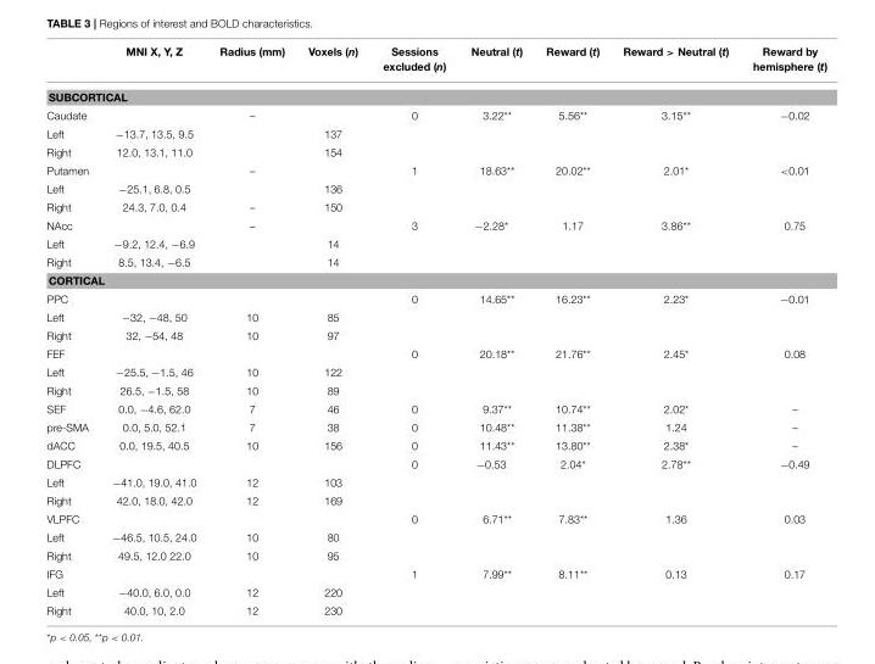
<table><thead><tr><td></td><td>MNI X, Y, Z</td><td>Radius (mm)</td><td>Voxels (n)</td><td>Sessions excluded (n)</td><td>Neutral (t)</td><td>Reward (t)</td><td>Reward &gt; Neutral (t)</td><td>Reward by hemisphere (t)</td></tr></thead><tbody><tr><td colspan="9">SUBCORTICAL</td></tr><tr><td>Caudate</td><td></td><td>–</td><td></td><td>0</td><td>3.22**</td><td>5.56**</td><td>3.15**</td><td>−0.02</td></tr><tr><td>Left</td><td>−13.7, 13.5, 9.5</td><td></td><td>137</td><td></td><td></td><td></td><td></td><td></td></tr><tr><td>Right</td><td>12.0, 13.1, 11.0</td><td></td><td>154</td><td></td><td></td><td></td><td></td><td></td></tr><tr><td>Putamen</td><td></td><td>–</td><td></td><td>1</td><td>18.63**</td><td>20.02**</td><td>2.01*</td><td>&lt;0.01</td></tr><tr><td>Left</td><td>−25.1, 6.8, 0.5</td><td></td><td>136</td><td></td><td></td><td></td><td></td><td></td></tr><tr><td>Right</td><td>24.3, 7.0, 0.4</td><td>–</td><td>150</td><td></td><td></td><td></td><td></td><td></td></tr><tr><td>NAcc</td><td></td><td>–</td><td></td><td>3</td><td>−2.28*</td><td>1.17</td><td>3.86**</td><td>0.75</td></tr><tr><td>Left</td><td>−9.2, 12.4, −6.9</td><td></td><td>14</td><td></td><td></td><td></td><td></td><td></td></tr><tr><td>Right</td><td>8.5, 13.4, −6.5</td><td></td><td>14</td><td></td><td></td><td></td><td></td><td></td></tr><tr><td colspan="9">CORTICAL</td></tr><tr><td>PPC</td><td></td><td></td><td></td><td>0</td><td>14.65**</td><td>16.23**</td><td>2.23*</td><td>−0.01</td></tr><tr><td>Left</td><td>−32, −48, 50</td><td>10</td><td>85</td><td></td><td></td><td></td><td></td><td></td></tr><tr><td>Right</td><td>32, −54, 48</td><td>10</td><td>97</td><td></td><td></td><td></td><td></td><td></td></tr><tr><td>FEF</td><td></td><td></td><td></td><td>0</td><td>20.18**</td><td>21.76**</td><td>2.45*</td><td>0.08</td></tr><tr><td>Left</td><td>−25.5, −1.5, 46</td><td>10</td><td>122</td><td></td><td></td><td></td><td></td><td></td></tr><tr><td>Right</td><td>26.5, −1.5, 58</td><td>10</td><td>89</td><td></td><td></td><td></td><td></td><td></td></tr><tr><td>SEF</td><td>0.0, −4.6, 62.0</td><td>7</td><td>46</td><td>0</td><td>9.37**</td><td>10.74**</td><td>2.02*</td><td>–</td></tr><tr><td>pre-SMA</td><td>0.0, 5.0, 52.1</td><td>7</td><td>38</td><td>0</td><td>10.48**</td><td>11.38**</td><td>1.24</td><td>–</td></tr><tr><td>dACC</td><td>0.0, 19.5, 40.5</td><td>10</td><td>156</td><td>0</td><td>11.43**</td><td>13.80**</td><td>2.38*</td><td>–</td></tr><tr><td>DLPFC</td><td></td><td></td><td></td><td>0</td><td>−0.53</td><td>2.04*</td><td>2.78**</td><td>−0.49</td></tr><tr><td>Left</td><td>−41.0, 19.0, 41.0</td><td>12</td><td>103</td><td></td><td></td><td></td><td></td><td></td></tr><tr><td>Right</td><td>42.0, 18.0, 42.0</td><td>12</td><td>169</td><td></td><td></td><td></td><td></td><td></td></tr><tr><td>VLPFC</td><td></td><td></td><td></td><td>0</td><td>6.71**</td><td>7.83**</td><td>1.36</td><td>0.03</td></tr><tr><td>Left</td><td>−46.5, 10.5, 24.0</td><td>10</td><td>80</td><td></td><td></td><td></td><td></td><td></td></tr><tr><td>Right</td><td>49.5, 12.0 22.0</td><td>10</td><td>95</td><td></td><td></td><td></td><td></td><td></td></tr><tr><td>IFG</td><td></td><td></td><td></td><td>1</td><td>7.99**</td><td>8.11**</td><td>0.13</td><td>0.17</td></tr><tr><td>Left</td><td>−40.0, 6.0, 0.0</td><td>12</td><td>220</td><td></td><td></td><td></td><td></td><td></td></tr><tr><td>Right</td><td>40.0, 10, 2.0</td><td>12</td><td>230</td><td></td><td></td><td></td><td></td><td></td></tr></tbody></table>